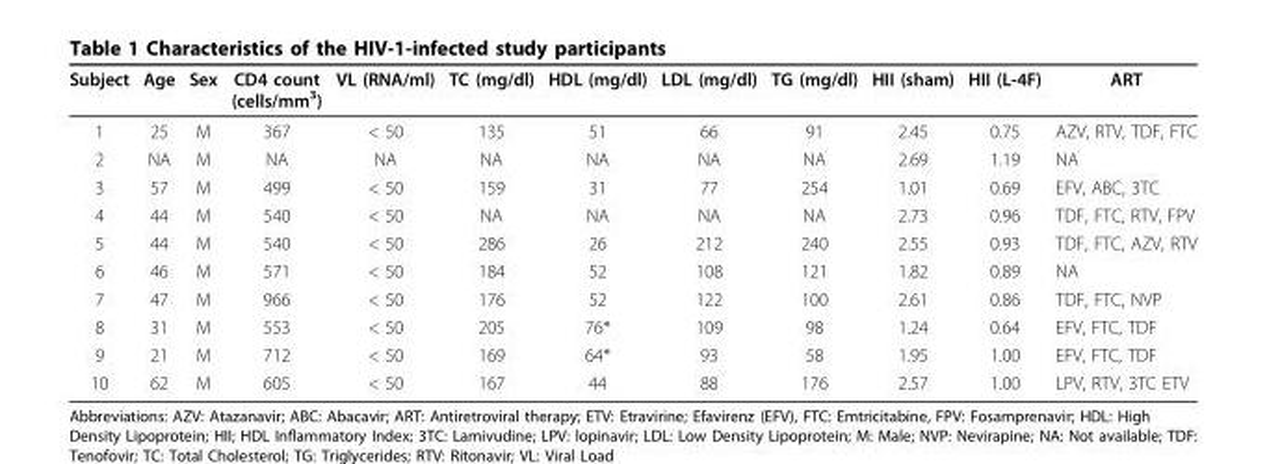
<table><thead><tr><td>Subject</td><td>Age</td><td>Sex</td><td>CD4 count (cells/mm<sup>3</sup>)</td><td>VL (RNA/ml)</td><td>TC (mg/dl)</td><td>HDL (mg/dl)</td><td>LDL (mg/dl)</td><td>TG (mg/dl)</td><td>HII (sham)</td><td>HII (L-4F)</td><td>ART</td></tr></thead><tbody><tr><td>1</td><td>25</td><td>M</td><td>367</td><td>&lt; 50</td><td>135</td><td>51</td><td>66</td><td>91</td><td>2.45</td><td>0.75</td><td>AZV, RTV, TDF, FTC</td></tr><tr><td>2</td><td>NA</td><td>M</td><td>NA</td><td>NA</td><td>NA</td><td>NA</td><td>NA</td><td>NA</td><td>2.69</td><td>1.19</td><td>NA</td></tr><tr><td>3</td><td>57</td><td>M</td><td>499</td><td>&lt; 50</td><td>159</td><td>31</td><td>77</td><td>254</td><td>1.01</td><td>0.69</td><td>EFV, ABC, 3TC</td></tr><tr><td>4</td><td>44</td><td>M</td><td>540</td><td>&lt; 50</td><td>NA</td><td>NA</td><td>NA</td><td>NA</td><td>2.73</td><td>0.96</td><td>TDF, FTC, RTV, FPV</td></tr><tr><td>5</td><td>44</td><td>M</td><td>540</td><td>&lt; 50</td><td>286</td><td>26</td><td>212</td><td>240</td><td>2.55</td><td>0.93</td><td>TDF, FTC, AZV, RTV</td></tr><tr><td>6</td><td>46</td><td>M</td><td>571</td><td>&lt; 50</td><td>184</td><td>52</td><td>108</td><td>121</td><td>1.82</td><td>0.89</td><td>NA</td></tr><tr><td>7</td><td>47</td><td>M</td><td>966</td><td>&lt; 50</td><td>176</td><td>52</td><td>122</td><td>100</td><td>2.61</td><td>0.86</td><td>TDF, FTC, NVP</td></tr><tr><td>8</td><td>31</td><td>M</td><td>553</td><td>&lt; 50</td><td>205</td><td>76*</td><td>109</td><td>98</td><td>1.24</td><td>0.64</td><td>EFV, FTC, TDF</td></tr><tr><td>9</td><td>21</td><td>M</td><td>712</td><td>&lt; 50</td><td>169</td><td>64*</td><td>93</td><td>58</td><td>1.95</td><td>1.00</td><td>EFV, FTC, TDF</td></tr><tr><td>10</td><td>62</td><td>M</td><td>605</td><td>&lt; 50</td><td>167</td><td>44</td><td>88</td><td>176</td><td>2.57</td><td>1.00</td><td>LPV, RTV, 3TC ETV</td></tr></tbody></table>